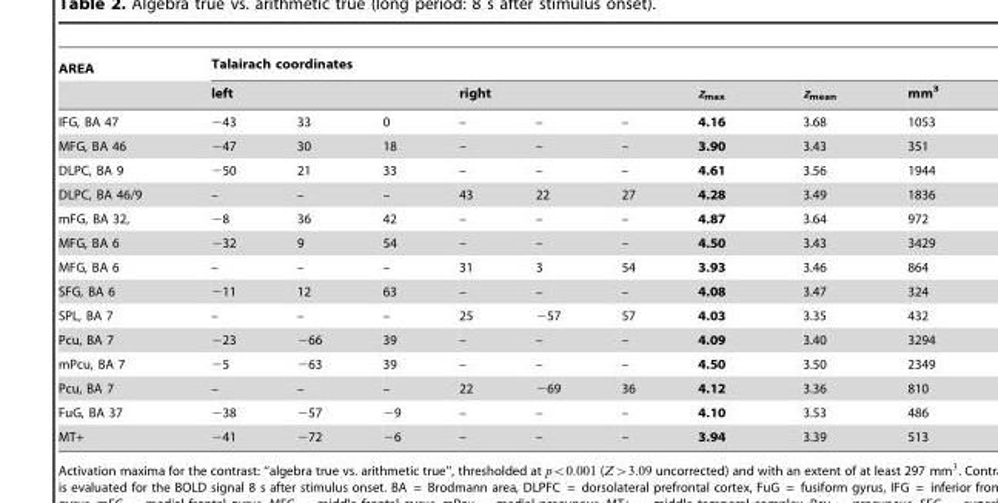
<table><thead><tr><td rowspan="3">AREA IFG, BA 47</td><td colspan="9">Talairach coordinates</td></tr><tr><td colspan="3">left</td><td colspan="3">right</td><td rowspan="2">z<sub>max</sub> 4.16</td><td rowspan="2">z<sub>mean</sub> 3.68</td><td rowspan="2">mm<sup>3</sup> 1053</td></tr><tr><td>−43</td><td>33</td><td>0</td><td>–</td><td>–</td><td>–</td></tr></thead><tbody><tr><td>MFG, BA 46</td><td>−47</td><td>30</td><td>18</td><td>–</td><td>–</td><td>–</td><td>3.90</td><td>3.43</td><td>351</td></tr><tr><td>DLPC, BA 9</td><td>−50</td><td>21</td><td>33</td><td>–</td><td>–</td><td>–</td><td>4.61</td><td>3.56</td><td>1944</td></tr><tr><td>DLPC, BA 46/9</td><td>–</td><td>–</td><td>–</td><td>43</td><td>22</td><td>27</td><td>4.28</td><td>3.49</td><td>1836</td></tr><tr><td>mFG, BA 32,</td><td>−8</td><td>36</td><td>42</td><td>–</td><td>–</td><td>–</td><td>4.87</td><td>3.64</td><td>972</td></tr><tr><td>MFG, BA 6</td><td>−32</td><td>9</td><td>54</td><td>–</td><td>–</td><td>–</td><td>4.50</td><td>3.43</td><td>3429</td></tr><tr><td>MFG, BA 6</td><td>–</td><td>–</td><td>–</td><td>31</td><td>3</td><td>54</td><td>3.93</td><td>3.46</td><td>864</td></tr><tr><td>SFG, BA 6</td><td>−11</td><td>12</td><td>63</td><td>–</td><td>–</td><td>–</td><td>4.08</td><td>3.47</td><td>324</td></tr><tr><td>SPL, BA 7</td><td>–</td><td>–</td><td>–</td><td>25</td><td>−57</td><td>57</td><td>4.03</td><td>3.35</td><td>432</td></tr><tr><td>Pcu, BA 7</td><td>−23</td><td>−66</td><td>39</td><td>–</td><td>–</td><td>–</td><td>4.09</td><td>3.40</td><td>3294</td></tr><tr><td>mPcu, BA 7</td><td>−5</td><td>−63</td><td>39</td><td>–</td><td>–</td><td>–</td><td>4.50</td><td>3.50</td><td>2349</td></tr><tr><td>Pcu, BA 7</td><td>–</td><td>–</td><td>–</td><td>22</td><td>−69</td><td>36</td><td>4.12</td><td>3.36</td><td>810</td></tr><tr><td>FuG, BA 37</td><td>−38</td><td>−57</td><td>−9</td><td>–</td><td>–</td><td>–</td><td>4.10</td><td>3.53</td><td>486</td></tr><tr><td>MT+</td><td>−41</td><td>−72</td><td>−6</td><td>–</td><td>–</td><td>–</td><td>3.94</td><td>3.39</td><td>513</td></tr></tbody></table>